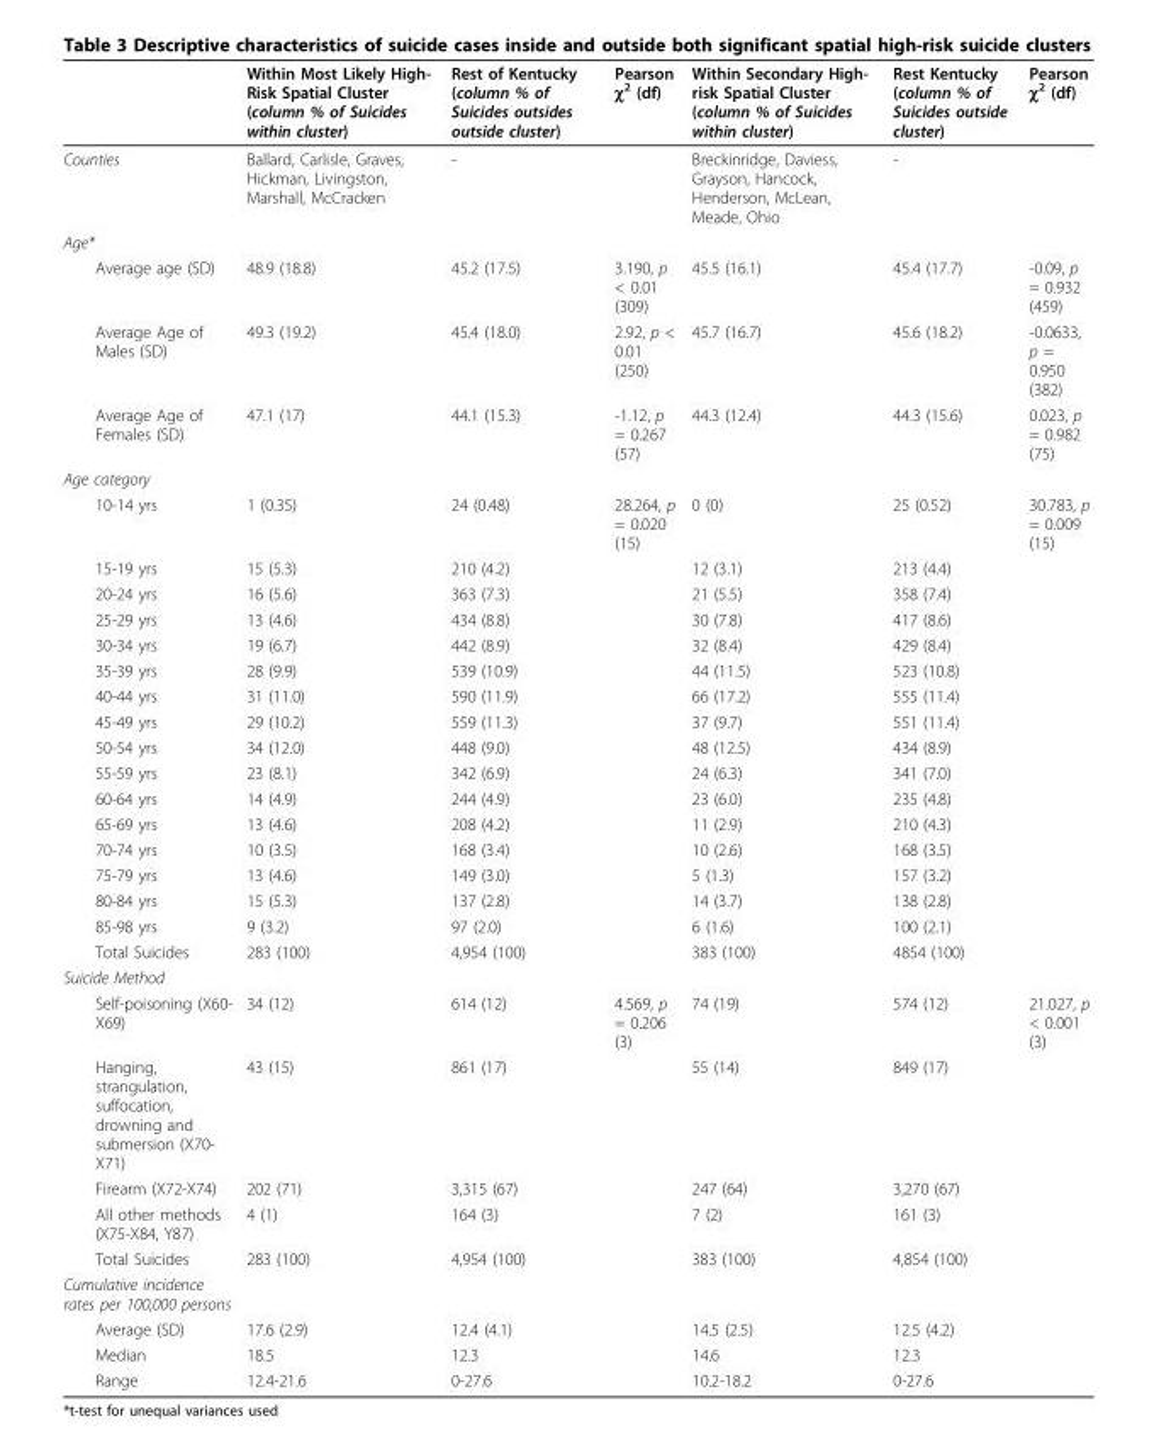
<table><thead><tr><td></td><td>Within Most Likely High- Risk Spatial Cluster (column % of Suicides within cluster)</td><td>Rest of Kentucky (column % of Suicides outsides outside cluster)</td><td>Pearson χ<sup>2</sup> (df)</td><td>Within Secondary High- risk Spatial Cluster (column % of Suicides within cluster)</td><td>Rest Kentucky (column % of Suicides outside cluster)</td><td>Pearson χ<sup>2</sup> (df)</td></tr></thead><tbody><tr><td>Counties</td><td>Ballard, Carlisle, Graves, Hickman, Livingston, Marshall, McCracken</td><td>-</td><td></td><td>Breckinridge, Daviess, Grayson, Hancock, Henderson, McLean, Meade, Ohio</td><td>-</td><td></td></tr><tr><td colspan="7">Age*</td></tr><tr><td>Average age (SD)</td><td>48.9 (18.8)</td><td>45.2 (17.5)</td><td>3.190, p &lt; 0.01 (309)</td><td>45.5 (16.1)</td><td>45.4 (17.7)</td><td>-0.09, p = 0.932 (459)</td></tr><tr><td>Average Age of Males (SD)</td><td>49.3 (19.2)</td><td>45.4 (18.0)</td><td>2.92, p &lt; 0.01 (250)</td><td>45.7 (16.7)</td><td>45.6 (18.2)</td><td>-0.0633, p = 0.950 (382)</td></tr><tr><td>Average Age of Females (SD)</td><td>47.1 (17)</td><td>44.1 (15.3)</td><td>-1.12, p = 0.267 (57)</td><td>44.3 (12.4)</td><td>44.3 (15.6)</td><td>0.023, p = 0.982 (75)</td></tr><tr><td colspan="7">Age category</td></tr><tr><td>10-14 yrs</td><td>1 (0.35)</td><td>24 (0.48)</td><td>28.264, p = 0.020 (15)</td><td>0 (0)</td><td>25 (0.52)</td><td>30.783, p = 0.009 (15)</td></tr><tr><td>15-19 yrs</td><td>15 (5.3)</td><td>210 (4.2)</td><td></td><td>12 (3.1)</td><td>213 (4.4)</td><td></td></tr><tr><td>20-24 yrs</td><td>16 (5.6)</td><td>363 (7.3)</td><td></td><td>21 (5.5)</td><td>358 (7.4)</td><td></td></tr><tr><td>25-29 yrs</td><td>13 (4.6)</td><td>434 (8.8)</td><td></td><td>30 (7.8)</td><td>417 (8.6)</td><td></td></tr><tr><td>30-34 yrs</td><td>19 (6.7)</td><td>442 (8.9)</td><td></td><td>32 (8.4)</td><td>429 (8.4)</td><td></td></tr><tr><td>35-39 yrs</td><td>28 (9.9)</td><td>539 (10.9)</td><td></td><td>44 (11.5)</td><td>523 (10.8)</td><td></td></tr><tr><td>40-44 yrs</td><td>31 (11.0)</td><td>590 (11.9)</td><td></td><td>66 (17.2)</td><td>555 (11.4)</td><td></td></tr><tr><td>45-49 yrs</td><td>29 (10.2)</td><td>559 (11.3)</td><td></td><td>37 (9.7)</td><td>551 (11.4)</td><td></td></tr><tr><td>50-54 yrs</td><td>34 (12.0)</td><td>448 (9.0)</td><td></td><td>48 (12.5)</td><td>434 (8.9)</td><td></td></tr><tr><td>55-59 yrs</td><td>23 (8.1)</td><td>342 (6.9)</td><td></td><td>24 (6.3)</td><td>341 (7.0)</td><td></td></tr><tr><td>60-64 yrs</td><td>14 (4.9)</td><td>244 (4.9)</td><td></td><td>23 (6.0)</td><td>235 (4.8)</td><td></td></tr><tr><td>65-69 yrs</td><td>13 (4.6)</td><td>208 (4.2)</td><td></td><td>11 (2.9)</td><td>210 (4.3)</td><td></td></tr><tr><td>70-74 yrs</td><td>10 (3.5)</td><td>168 (3.4)</td><td></td><td>10 (2.6)</td><td>168 (3.5)</td><td></td></tr><tr><td>75-79 yrs</td><td>13 (4.6)</td><td>149 (3.0)</td><td></td><td>5 (1.3)</td><td>157 (3.2)</td><td></td></tr><tr><td>80-84 yrs</td><td>15 (5.3)</td><td>137 (2.8)</td><td></td><td>14 (3.7)</td><td>138 (2.8)</td><td></td></tr><tr><td>85-98 yrs</td><td>9 (3.2)</td><td>97 (2.0)</td><td></td><td>6 (1.6)</td><td>100 (2.1)</td><td></td></tr><tr><td>Total Suicides</td><td>283 (100)</td><td>4,954 (100)</td><td></td><td>383 (100)</td><td>4854 (100)</td><td></td></tr><tr><td colspan="7">Suicide Method</td></tr><tr><td>Self-poisoning (X60- X69)</td><td>34 (12)</td><td>614 (12)</td><td>4.569, p = 0.206 (3)</td><td>74 (19)</td><td>574 (12)</td><td>21.027, p &lt; 0.001 (3)</td></tr><tr><td>Hanging, strangulation, suffocation, drowning and submersion (X70- X71)</td><td>43 (15)</td><td>861 (17)</td><td></td><td>55 (14)</td><td>849 (17)</td><td></td></tr><tr><td>Firearm (X72-X74)</td><td>202 (71)</td><td>3,315 (67)</td><td></td><td>247 (64)</td><td>3,270 (67)</td><td></td></tr><tr><td>All other methods (X75-X84, Y87)</td><td>4 (1)</td><td>164 (3)</td><td></td><td>7 (2)</td><td>161 (3)</td><td></td></tr><tr><td>Total Suicides</td><td>283 (100)</td><td>4,954 (100)</td><td></td><td>383 (100)</td><td>4,854 (100)</td><td></td></tr><tr><td colspan="7">Cumulative incidence rates per 100,000 persons</td></tr><tr><td>Average (SD)</td><td>17.6 (2.9)</td><td>12.4 (4.1)</td><td></td><td>14.5 (2.5)</td><td>12.5 (4.2)</td><td></td></tr><tr><td>Median</td><td>18.5</td><td>12.3</td><td></td><td>14.6</td><td>12.3</td><td></td></tr><tr><td>Range</td><td>12.4-21.6</td><td>0-27.6</td><td></td><td>10.2-18.2</td><td>0-27.6</td><td></td></tr></tbody></table>